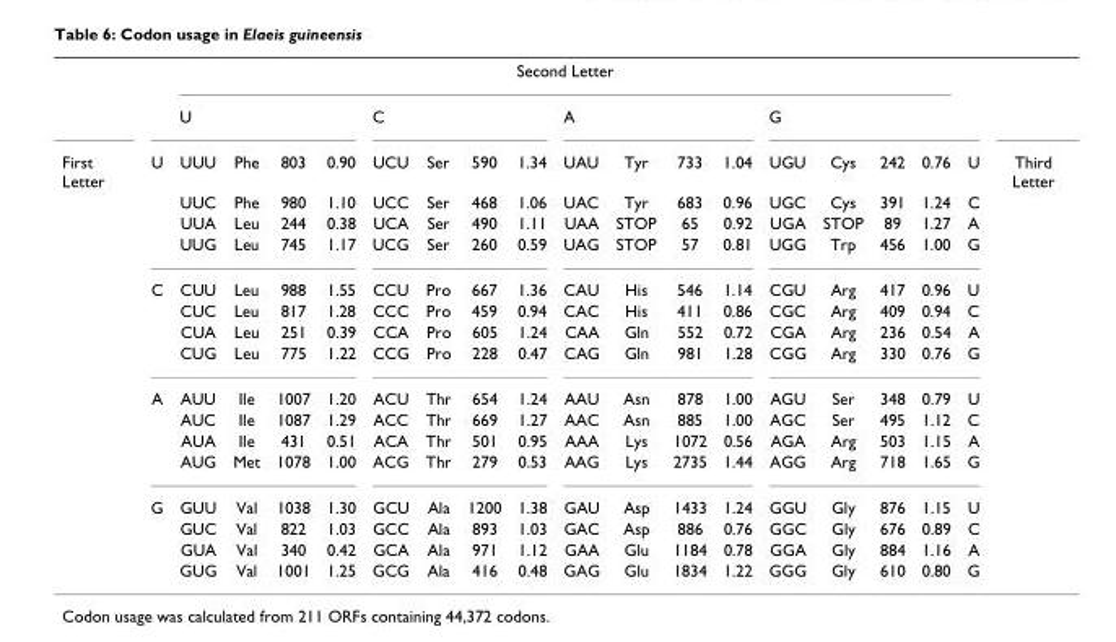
<table><thead><tr><td rowspan="3">First Letter</td><td rowspan="3">U</td><td colspan="16">Second Letter</td><td rowspan="3">U</td><td rowspan="3">Third Letter</td></tr><tr><td colspan="4">U</td><td colspan="4">C</td><td colspan="4">A</td><td colspan="4">G</td></tr><tr><td>UUU</td><td>Phe</td><td>803</td><td>0.90</td><td>UCU</td><td>Ser</td><td>590</td><td>1.34</td><td>UAU</td><td>Tyr</td><td>733</td><td>1.04</td><td>UGU</td><td>Cys</td><td>242</td><td>0.76</td></tr></thead><tbody><tr><td></td><td></td><td>UUC</td><td>Phe</td><td>980</td><td>1.10</td><td>UCC</td><td>Ser</td><td>468</td><td>1.06</td><td>UAC</td><td>Tyr</td><td>683</td><td>0.96</td><td>UGC</td><td>Cys</td><td>391</td><td>1.24</td><td>C</td><td></td></tr><tr><td></td><td></td><td>UUA</td><td>Leu</td><td>244</td><td>0.38</td><td>UCA</td><td>Ser</td><td>490</td><td>1.11</td><td>UAA</td><td>STOP</td><td>65</td><td>0.92</td><td>UGA</td><td>STOP</td><td>89</td><td>1.27</td><td>A</td><td></td></tr><tr><td></td><td></td><td>UUG</td><td>Leu</td><td>745</td><td>1.17</td><td>UCG</td><td>Ser</td><td>260</td><td>0.59</td><td>UAG</td><td>STOP</td><td>57</td><td>0.81</td><td>UGG</td><td>Trp</td><td>456</td><td>1.00</td><td>G</td><td></td></tr><tr><td></td><td>C</td><td>CUU</td><td>Leu</td><td>988</td><td>1.55</td><td>CCU</td><td>Pro</td><td>667</td><td>1.36</td><td>CAU</td><td>His</td><td>546</td><td>1.14</td><td>CGU</td><td>Arg</td><td>417</td><td>0.96</td><td>U</td><td></td></tr><tr><td></td><td></td><td>CUC</td><td>Leu</td><td>817</td><td>1.28</td><td>CCC</td><td>Pro</td><td>459</td><td>0.94</td><td>CAC</td><td>His</td><td>411</td><td>0.86</td><td>CGC</td><td>Arg</td><td>409</td><td>0.94</td><td>C</td><td></td></tr><tr><td></td><td></td><td>CUA</td><td>Leu</td><td>251</td><td>0.39</td><td>CCA</td><td>Pro</td><td>605</td><td>1.24</td><td>CAA</td><td>Gln</td><td>552</td><td>0.72</td><td>CGA</td><td>Arg</td><td>236</td><td>0.54</td><td>A</td><td></td></tr><tr><td></td><td></td><td>CUG</td><td>Leu</td><td>775</td><td>1.22</td><td>CCG</td><td>Pro</td><td>228</td><td>0.47</td><td>CAG</td><td>Gln</td><td>981</td><td>1.28</td><td>CGG</td><td>Arg</td><td>330</td><td>0.76</td><td>G</td><td></td></tr><tr><td></td><td>A</td><td>AUU</td><td>Ile</td><td>1007</td><td>1.20</td><td>ACU</td><td>Thr</td><td>654</td><td>1.24</td><td>AAU</td><td>Asn</td><td>878</td><td>1.00</td><td>AGU</td><td>Ser</td><td>348</td><td>0.79</td><td>U</td><td></td></tr><tr><td></td><td></td><td>AUC</td><td>Ile</td><td>1087</td><td>1.29</td><td>ACC</td><td>Thr</td><td>669</td><td>1.27</td><td>AAC</td><td>Asn</td><td>885</td><td>1.00</td><td>AGC</td><td>Ser</td><td>495</td><td>1.12</td><td>C</td><td></td></tr><tr><td></td><td></td><td>AUA</td><td>Ile</td><td>431</td><td>0.51</td><td>ACA</td><td>Thr</td><td>501</td><td>0.95</td><td>AAA</td><td>Lys</td><td>1072</td><td>0.56</td><td>AGA</td><td>Arg</td><td>503</td><td>1.15</td><td>A</td><td></td></tr><tr><td></td><td></td><td>AUG</td><td>Met</td><td>1078</td><td>1.00</td><td>ACG</td><td>Thr</td><td>279</td><td>0.53</td><td>AAG</td><td>Lys</td><td>2735</td><td>1.44</td><td>AGG</td><td>Arg</td><td>718</td><td>1.65</td><td>G</td><td></td></tr><tr><td></td><td>G</td><td>GUU</td><td>Val</td><td>1038</td><td>1.30</td><td>GCU</td><td>Ala</td><td>1200</td><td>1.38</td><td>GAU</td><td>Asp</td><td>1433</td><td>1.24</td><td>GGU</td><td>Gly</td><td>876</td><td>1.15</td><td>U</td><td></td></tr><tr><td></td><td></td><td>GUC</td><td>Val</td><td>822</td><td>1.03</td><td>GCC</td><td>Ala</td><td>893</td><td>1.03</td><td>GAC</td><td>Asp</td><td>886</td><td>0.76</td><td>GGC</td><td>Gly</td><td>676</td><td>0.89</td><td>C</td><td></td></tr><tr><td></td><td></td><td>GUA</td><td>Val</td><td>340</td><td>0.42</td><td>GCA</td><td>Ala</td><td>971</td><td>1.12</td><td>GAA</td><td>Glu</td><td>1184</td><td>0.78</td><td>GGA</td><td>Gly</td><td>884</td><td>1.16</td><td>A</td><td></td></tr><tr><td></td><td></td><td>GUG</td><td>Val</td><td>1001</td><td>1.25</td><td>GCG</td><td>Ala</td><td>416</td><td>0.48</td><td>GAG</td><td>Glu</td><td>1834</td><td>1.22</td><td>GGG</td><td>Gly</td><td>610</td><td>0.80</td><td>G</td><td></td></tr></tbody></table>